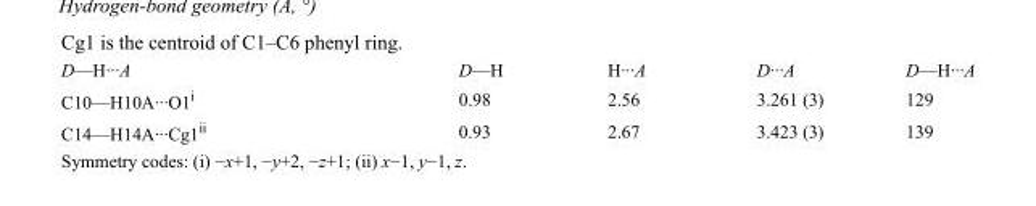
<table><tbody><tr><td>D—H···A</td><td>D—H</td><td>H···A</td><td>D···A</td><td>D—H···A</td></tr><tr><td>C10—H10A···O1<sup>i</sup></td><td>0.98</td><td>2.56</td><td>3.261 (3)</td><td>129</td></tr><tr><td>C14—H14A···Cg1<sup>ii</sup></td><td>0.93</td><td>2.67</td><td>3.423 (3)</td><td>139</td></tr></tbody></table>